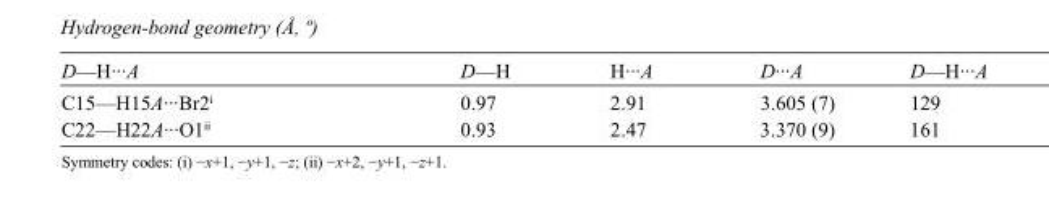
<table><tbody><tr><td>D—H···A</td><td>D—H</td><td>H···A</td><td>D···A</td><td>D—H···A</td></tr><tr><td>C15—H15A···Br2<sup>i</sup></td><td>0.97</td><td>2.91</td><td>3.605 (7)</td><td>129</td></tr><tr><td>C22—H22A···O1<sup>ii</sup></td><td>0.93</td><td>2.47</td><td>3.370 (9)</td><td>161</td></tr></tbody></table>